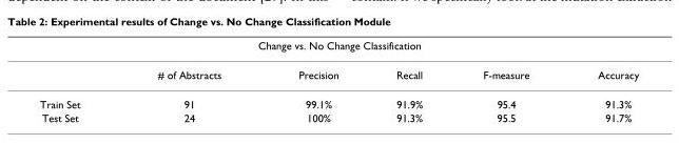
<table><thead><tr><td colspan="6">Change vs. No Change Classification</td></tr><tr><td></td><td># of Abstracts</td><td>Precision</td><td>Recall</td><td>F-measure</td><td>Accuracy</td></tr></thead><tbody><tr><td>Train Set</td><td>91</td><td>99.1%</td><td>91.9%</td><td>95.4</td><td>91.3%</td></tr><tr><td>Test Set</td><td>24</td><td>100%</td><td>91.3%</td><td>95.5</td><td>91.7%</td></tr></tbody></table>